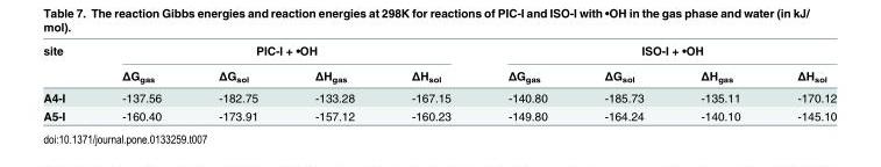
<table><thead><tr><td rowspan="2">site</td><td colspan="4">PIC-I + •OH</td><td colspan="4">ISO-I + •OH</td></tr><tr><td>ΔG<sub>gas</sub></td><td>ΔG<sub>sol</sub></td><td>ΔH<sub>gas</sub></td><td>ΔH<sub>sol</sub></td><td>ΔG<sub>gas</sub></td><td>ΔG<sub>sol</sub></td><td>ΔH<sub>gas</sub></td><td>ΔH<sub>sol</sub></td></tr></thead><tbody><tr><td>A4-I</td><td>-137.56</td><td>-182.75</td><td>-133.28</td><td>-167.15</td><td>-140.80</td><td>-185.73</td><td>-135.11</td><td>-170.12</td></tr><tr><td>A5-I</td><td>-160.40</td><td>-173.91</td><td>-157.12</td><td>-160.23</td><td>-149.80</td><td>-164.24</td><td>-140.10</td><td>-145.10</td></tr></tbody></table>